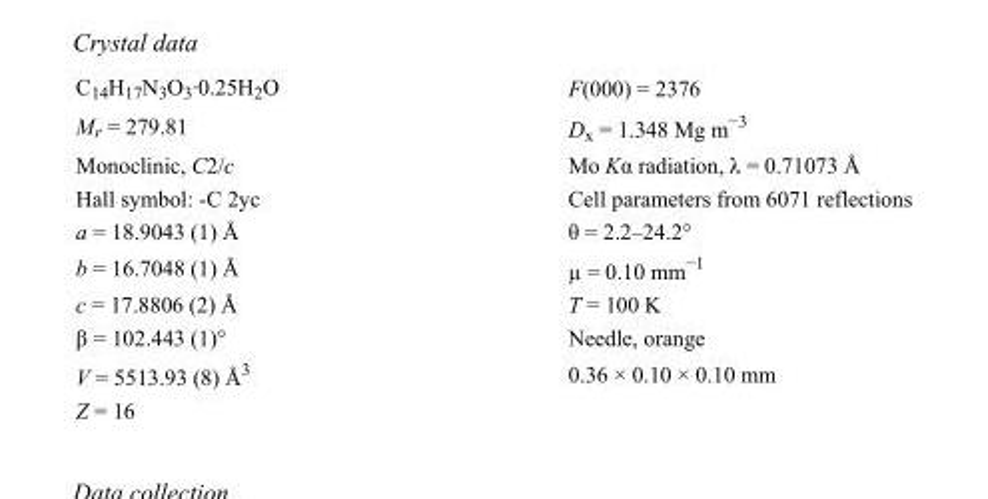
<table><tbody><tr><td>C<sub>14</sub>H<sub>17</sub>N<sub>3</sub>O<sub>3</sub>·0.25H<sub>2</sub>O</td><td>F(000) = 2376</td></tr><tr><td>M<sub>r</sub> = 279.81</td><td>D<sub>x</sub> = 1.348 Mg m<sup>−3</sup></td></tr><tr><td>Monoclinic, C2/c</td><td>Mo Kα radiation, λ = 0.71073 Å</td></tr><tr><td>Hall symbol: -C 2yc</td><td>Cell parameters from 6071 reflections</td></tr><tr><td>a = 18.9043 (1) Å</td><td>θ = 2.2–24.2°</td></tr><tr><td>b = 16.7048 (1) Å</td><td>µ = 0.10 mm<sup>−1</sup></td></tr><tr><td>c = 17.8806 (2) Å</td><td>T = 100 K</td></tr><tr><td>β = 102.443 (1)°</td><td>Needle, orange</td></tr><tr><td>V = 5513.93 (8) Å<sup>3</sup></td><td>0.36 × 0.10 × 0.10 mm</td></tr><tr><td>Z = 16</td><td></td></tr></tbody></table>